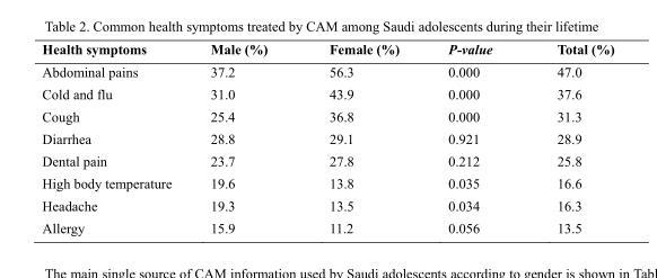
<table><thead><tr><td>Health symptoms</td><td>Male (%)</td><td>Female (%)</td><td>P-value</td><td>Total (%)</td></tr></thead><tbody><tr><td>Abdominal pains</td><td>37.2</td><td>56.3</td><td>0.000</td><td>47.0</td></tr><tr><td>Cold and flu</td><td>31.0</td><td>43.9</td><td>0.000</td><td>37.6</td></tr><tr><td>Cough</td><td>25.4</td><td>36.8</td><td>0.000</td><td>31.3</td></tr><tr><td>Diarrhea</td><td>28.8</td><td>29.1</td><td>0.921</td><td>28.9</td></tr><tr><td>Dental pain</td><td>23.7</td><td>27.8</td><td>0.212</td><td>25.8</td></tr><tr><td>High body temperature</td><td>19.6</td><td>13.8</td><td>0.035</td><td>16.6</td></tr><tr><td>Headache</td><td>19.3</td><td>13.5</td><td>0.034</td><td>16.3</td></tr><tr><td>Allergy</td><td>15.9</td><td>11.2</td><td>0.056</td><td>13.5</td></tr></tbody></table>